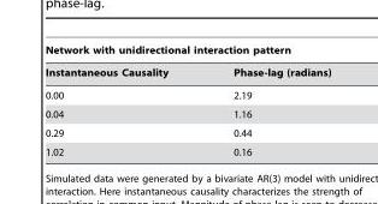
<table><thead><tr><td colspan="2">Network with unidirectional interaction pattern</td></tr><tr><td>Instantaneous Causality</td><td>Phase-lag (radians)</td></tr></thead><tbody><tr><td>0.00</td><td>2.19</td></tr><tr><td>0.04</td><td>1.16</td></tr><tr><td>0.29</td><td>0.44</td></tr><tr><td>1.02</td><td>0.16</td></tr></tbody></table>